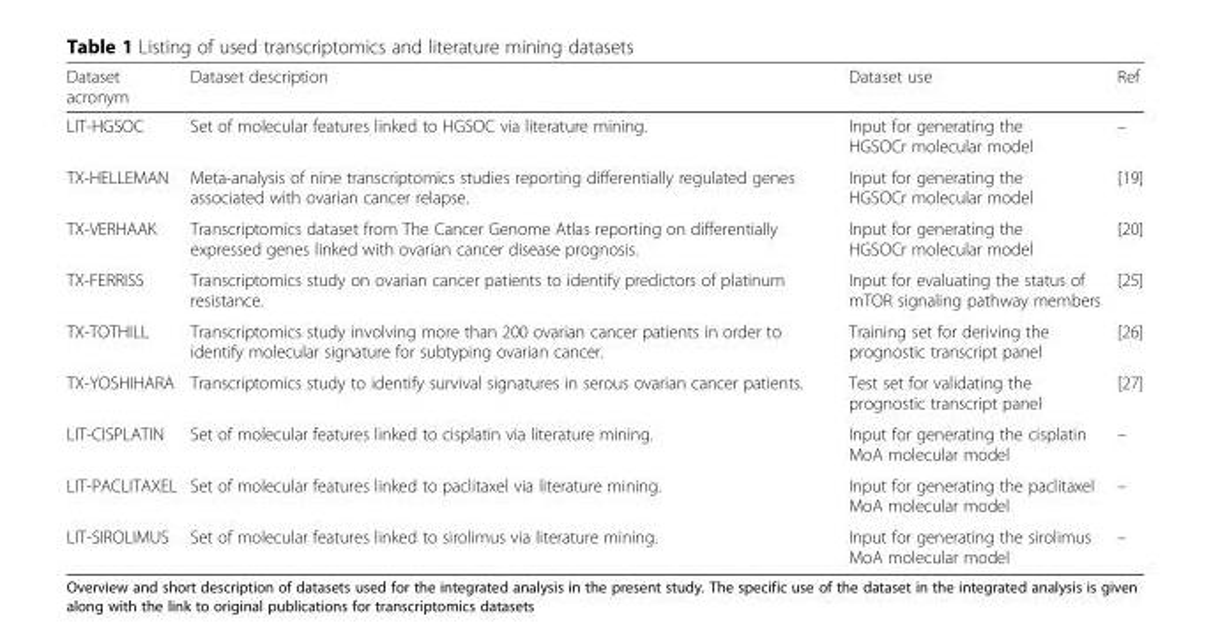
<table><thead><tr><td>Dataset acronym</td><td>Dataset description</td><td>Dataset use</td><td>Ref</td></tr></thead><tbody><tr><td>LIT-HGSOC</td><td>Set of molecular features linked to HGSOC via literature mining.</td><td>Input for generating the HGSOCr molecular model</td><td>–</td></tr><tr><td>TX-HELLEMAN</td><td>Meta-analysis of nine transcriptomics studies reporting differentially regulated genes associated with ovarian cancer relapse.</td><td>Input for generating the HGSOCr molecular model</td><td>[19]</td></tr><tr><td>TX-VERHAAK</td><td>Transcriptomics dataset from The Cancer Genome Atlas reporting on differentially expressed genes linked with ovarian cancer disease prognosis.</td><td>Input for generating the HGSOCr molecular model</td><td>[20]</td></tr><tr><td>TX-FERRISS</td><td>Transcriptomics study on ovarian cancer patients to identify predictors of platinum resistance.</td><td>Input for evaluating the status of mTOR signaling pathway members</td><td>[25]</td></tr><tr><td>TX-TOTHILL</td><td>Transcriptomics study involving more than 200 ovarian cancer patients in order to identify molecular signature for subtyping ovarian cancer.</td><td>Training set for deriving the prognostic transcript panel</td><td>[26]</td></tr><tr><td>TX-YOSHIHARA</td><td>Transcriptomics study to identify survival signatures in serous ovarian cancer patients.</td><td>Test set for validating the prognostic transcript panel</td><td>[27]</td></tr><tr><td>LIT-CISPLATIN</td><td>Set of molecular features linked to cisplatin via literature mining.</td><td>Input for generating the cisplatin MoA molecular model</td><td>–</td></tr><tr><td>LIT-PACLITAXEL</td><td>Set of molecular features linked to paclitaxel via literature mining.</td><td>Input for generating the paclitaxel MoA molecular model</td><td>–</td></tr><tr><td>LIT-SIROLIMUS</td><td>Set of molecular features linked to sirolimus via literature mining.</td><td>Input for generating the sirolimus MoA molecular model</td><td>–</td></tr></tbody></table>